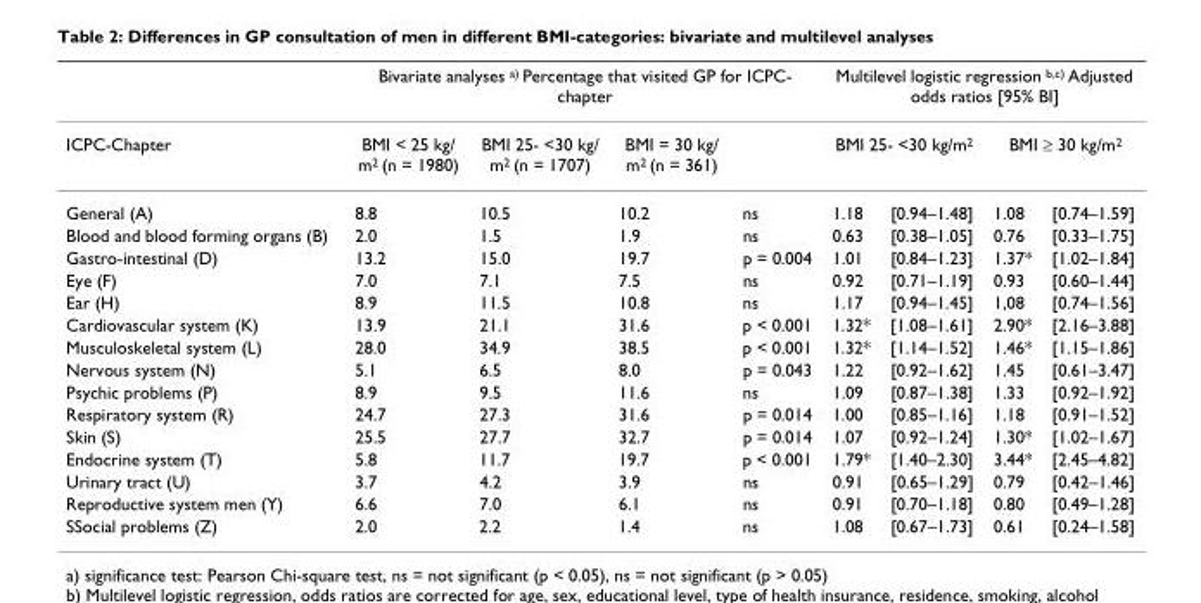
<table><thead><tr><td rowspan="3">ICPC-Chapter General (A)</td><td colspan="4">Bivariate analyses a) Percentage that visited GP for ICPC- chapter</td><td colspan="4">Multilevel logistic regression b,c) Adjusted odds ratios [95% BI]</td></tr><tr><td rowspan="2">BMI &lt; 25 kg/ m2 (n = 1980) 8.8</td><td rowspan="2">BMI 25- &lt;30 kg/ m2 (n = 1707) 10.5</td><td rowspan="2">BMI = 30 kg/ m2 (n = 361) 10.2</td><td rowspan="2">ns</td><td colspan="2">BMI 25- &lt;30 kg/m2</td><td colspan="2">BMI ≥ 30 kg/m2</td></tr><tr><td>1.18</td><td>[0.94–1.48]</td><td>1.08</td><td>[0.74–1.59]</td></tr></thead><tbody><tr><td>Blood and blood forming organs (B)</td><td>2.0</td><td>1.5</td><td>1.9</td><td>ns</td><td>0.63</td><td>[0.38–1.05]</td><td>0.76</td><td>[0.33–1.75]</td></tr><tr><td>Gastro-intestinal (D)</td><td>13.2</td><td>15.0</td><td>19.7</td><td>p = 0.004</td><td>1.01</td><td>[0.84–1.23]</td><td>1.37*</td><td>[1.02–1.84]</td></tr><tr><td>Eye (F)</td><td>7.0</td><td>7.1</td><td>7.5</td><td>ns</td><td>0.92</td><td>[0.71–1.19]</td><td>0.93</td><td>[0.60–1.44]</td></tr><tr><td>Ear (H)</td><td>8.9</td><td>11.5</td><td>10.8</td><td>ns</td><td>1.17</td><td>[0.94–1.45]</td><td>1,08</td><td>[0.74–1.56]</td></tr><tr><td>Cardiovascular system (K)</td><td>13.9</td><td>21.1</td><td>31.6</td><td>p &lt; 0.001</td><td>1.32*</td><td>[1.08–1.61]</td><td>2.90*</td><td>[2.16–3.88]</td></tr><tr><td>Musculoskeletal system (L)</td><td>28.0</td><td>34.9</td><td>38.5</td><td>p &lt; 0.001</td><td>1.32*</td><td>[1.14–1.52]</td><td>1.46*</td><td>[1.15–1.86]</td></tr><tr><td>Nervous system (N)</td><td>5.1</td><td>6.5</td><td>8.0</td><td>p = 0.043</td><td>1.22</td><td>[0.92–1.62]</td><td>1.45</td><td>[0.61–3.47]</td></tr><tr><td>Psychic problems (P)</td><td>8.9</td><td>9.5</td><td>11.6</td><td>ns</td><td>1.09</td><td>[0.87–1.38]</td><td>1.33</td><td>[0.92–1.92]</td></tr><tr><td>Respiratory system (R)</td><td>24.7</td><td>27.3</td><td>31.6</td><td>p = 0.014</td><td>1.00</td><td>[0.85–1.16]</td><td>1.18</td><td>[0.91–1.52]</td></tr><tr><td>Skin (S)</td><td>25.5</td><td>27.7</td><td>32.7</td><td>p = 0.014</td><td>1.07</td><td>[0.92–1.24]</td><td>1.30*</td><td>[1.02–1.67]</td></tr><tr><td>Endocrine system (T)</td><td>5.8</td><td>11.7</td><td>19.7</td><td>p &lt; 0.001</td><td>1.79*</td><td>[1.40–2.30]</td><td>3.44*</td><td>[2.45–4.82]</td></tr><tr><td>Urinary tract (U)</td><td>3.7</td><td>4.2</td><td>3.9</td><td>ns</td><td>0.91</td><td>[0.65–1.29]</td><td>0.79</td><td>[0.42–1.46]</td></tr><tr><td>Reproductive system men (Y)</td><td>6.6</td><td>7.0</td><td>6.1</td><td>ns</td><td>0.91</td><td>[0.70–1.18]</td><td>0.80</td><td>[0.49–1.28]</td></tr><tr><td>SSocial problems (Z)</td><td>2.0</td><td>2.2</td><td>1.4</td><td>ns</td><td>1.08</td><td>[0.67–1.73]</td><td>0.61</td><td>[0.24–1.58]</td></tr></tbody></table>